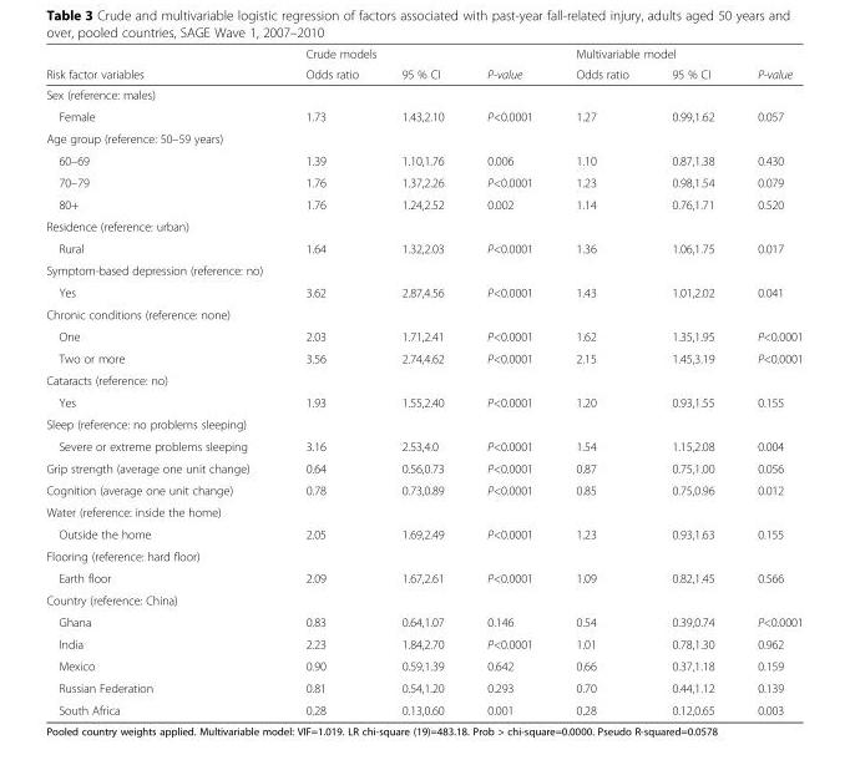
<table><thead><tr><td rowspan="2">Risk factor variables</td><td colspan="3">Crude models</td><td colspan="3">Multivariable model</td></tr><tr><td>Odds ratio</td><td>95 % CI</td><td>P-value</td><td>Odds ratio</td><td>95 % CI</td><td>P-value</td></tr></thead><tbody><tr><td colspan="7">Sex (reference: males)</td></tr><tr><td>Female</td><td>1.73</td><td>1.43,2.10</td><td>P&lt;0.0001</td><td>1.27</td><td>0.99,1.62</td><td>0.057</td></tr><tr><td colspan="7">Age group (reference: 50–59 years)</td></tr><tr><td>60–69</td><td>1.39</td><td>1.10,1.76</td><td>0.006</td><td>1.10</td><td>0.87,1.38</td><td>0.430</td></tr><tr><td>70–79</td><td>1.76</td><td>1.37,2.26</td><td>P&lt;0.0001</td><td>1.23</td><td>0.98,1.54</td><td>0.079</td></tr><tr><td>80+</td><td>1.76</td><td>1.24,2.52</td><td>0.002</td><td>1.14</td><td>0.76,1.71</td><td>0.520</td></tr><tr><td colspan="7">Residence (reference: urban)</td></tr><tr><td>Rural</td><td>1.64</td><td>1.32,2.03</td><td>P&lt;0.0001</td><td>1.36</td><td>1.06,1.75</td><td>0.017</td></tr><tr><td colspan="7">Symptom-based depression (reference: no)</td></tr><tr><td>Yes</td><td>3.62</td><td>2.87,4.56</td><td>P&lt;0.0001</td><td>1.43</td><td>1.01,2.02</td><td>0.041</td></tr><tr><td colspan="7">Chronic conditions (reference: none)</td></tr><tr><td>One</td><td>2.03</td><td>1.71,2.41</td><td>P&lt;0.0001</td><td>1.62</td><td>1.35,1.95</td><td>P&lt;0.0001</td></tr><tr><td>Two or more</td><td>3.56</td><td>2.74,4.62</td><td>P&lt;0.0001</td><td>2.15</td><td>1.45,3.19</td><td>P&lt;0.0001</td></tr><tr><td colspan="7">Cataracts (reference: no)</td></tr><tr><td>Yes</td><td>1.93</td><td>1.55,2.40</td><td>P&lt;0.0001</td><td>1.20</td><td>0.93,1.55</td><td>0.155</td></tr><tr><td colspan="7">Sleep (reference: no problems sleeping)</td></tr><tr><td>Severe or extreme problems sleeping</td><td>3.16</td><td>2.53,4.0</td><td>P&lt;0.0001</td><td>1.54</td><td>1.15,2.08</td><td>0.004</td></tr><tr><td>Grip strength (average one unit change)</td><td>0.64</td><td>0.56,0.73</td><td>P&lt;0.0001</td><td>0.87</td><td>0.75,1.00</td><td>0.056</td></tr><tr><td>Cognition (average one unit change)</td><td>0.78</td><td>0.73,0.89</td><td>P&lt;0.0001</td><td>0.85</td><td>0.75,0.96</td><td>0.012</td></tr><tr><td colspan="7">Water (reference: inside the home)</td></tr><tr><td>Outside the home</td><td>2.05</td><td>1.69,2.49</td><td>P&lt;0.0001</td><td>1.23</td><td>0.93,1.63</td><td>0.155</td></tr><tr><td colspan="7">Flooring (reference: hard floor)</td></tr><tr><td>Earth floor</td><td>2.09</td><td>1.67,2.61</td><td>P&lt;0.0001</td><td>1.09</td><td>0.82,1.45</td><td>0.566</td></tr><tr><td colspan="7">Country (reference: China)</td></tr><tr><td>Ghana</td><td>0.83</td><td>0.64,1.07</td><td>0.146</td><td>0.54</td><td>0.39,0.74</td><td>P&lt;0.0001</td></tr><tr><td>India</td><td>2.23</td><td>1.84,2.70</td><td>P&lt;0.0001</td><td>1.01</td><td>0.78,1.30</td><td>0.962</td></tr><tr><td>Mexico</td><td>0.90</td><td>0.59,1.39</td><td>0.642</td><td>0.66</td><td>0.37,1.18</td><td>0.159</td></tr><tr><td>Russian Federation</td><td>0.81</td><td>0.54,1.20</td><td>0.293</td><td>0.70</td><td>0.44,1.12</td><td>0.139</td></tr><tr><td>South Africa</td><td>0.28</td><td>0.13,0.60</td><td>0.001</td><td>0.28</td><td>0.12,0.65</td><td>0.003</td></tr></tbody></table>